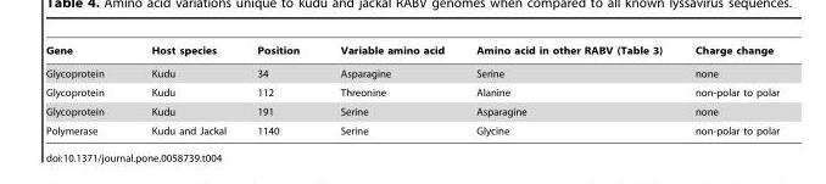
<table><thead><tr><td>Gene</td><td>Host species</td><td>Position</td><td>Variable amino acid</td><td>Amino acid in other RABV (Table 3)</td><td>Charge change</td></tr></thead><tbody><tr><td>Glycoprotein</td><td>Kudu</td><td>34</td><td>Asparagine</td><td>Serine</td><td>none</td></tr><tr><td>Glycoprotein</td><td>Kudu</td><td>112</td><td>Threonine</td><td>Alanine</td><td>non-polar to polar</td></tr><tr><td>Glycoprotein</td><td>Kudu</td><td>191</td><td>Serine</td><td>Asparagine</td><td>none</td></tr><tr><td>Polymerase</td><td>Kudu and Jackal</td><td>1140</td><td>Serine</td><td>Glycine</td><td>non-polar to polar</td></tr></tbody></table>